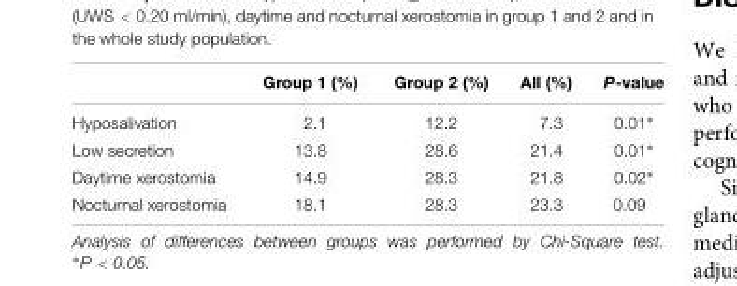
<table><thead><tr><td></td><td>Group 1 (%)</td><td>Group 2 (%)</td><td>All (%)</td><td>P-value</td></tr></thead><tbody><tr><td>Hyposalivation</td><td>2.1</td><td>12.2</td><td>7.3</td><td>0.01∗</td></tr><tr><td>Low secretion</td><td>13.8</td><td>28.6</td><td>21.4</td><td>0.01∗</td></tr><tr><td>Daytime xerostomia</td><td>14.9</td><td>28.3</td><td>21.8</td><td>0.02∗</td></tr><tr><td>Nocturnal xerostomia</td><td>18.1</td><td>28.3</td><td>23.3</td><td>0.09</td></tr></tbody></table>